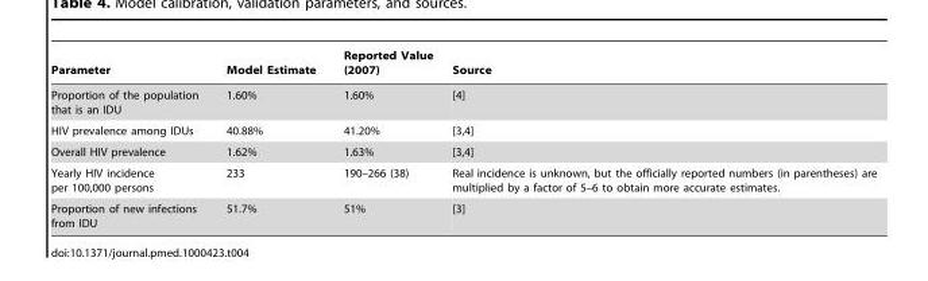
<table><thead><tr><td>Parameter</td><td>Model Estimate</td><td>Reported Value (2007)</td><td>Source</td></tr></thead><tbody><tr><td>Proportion of the population that is an IDU</td><td>1.60%</td><td>1.60%</td><td>[4]</td></tr><tr><td>HIV prevalence among IDUs</td><td>40.88%</td><td>41.20%</td><td>[3,4]</td></tr><tr><td>Overall HIV prevalence</td><td>1.62%</td><td>1.63%</td><td>[3,4]</td></tr><tr><td>Yearly HIV incidence per 100,000 persons</td><td>233</td><td>190–266 (38)</td><td>Real incidence is unknown, but the officially reported numbers (in parentheses) are multiplied by a factor of 5–6 to obtain more accurate estimates.</td></tr><tr><td>Proportion of new infections from IDU</td><td>51.7%</td><td>51%</td><td>[3]</td></tr></tbody></table>